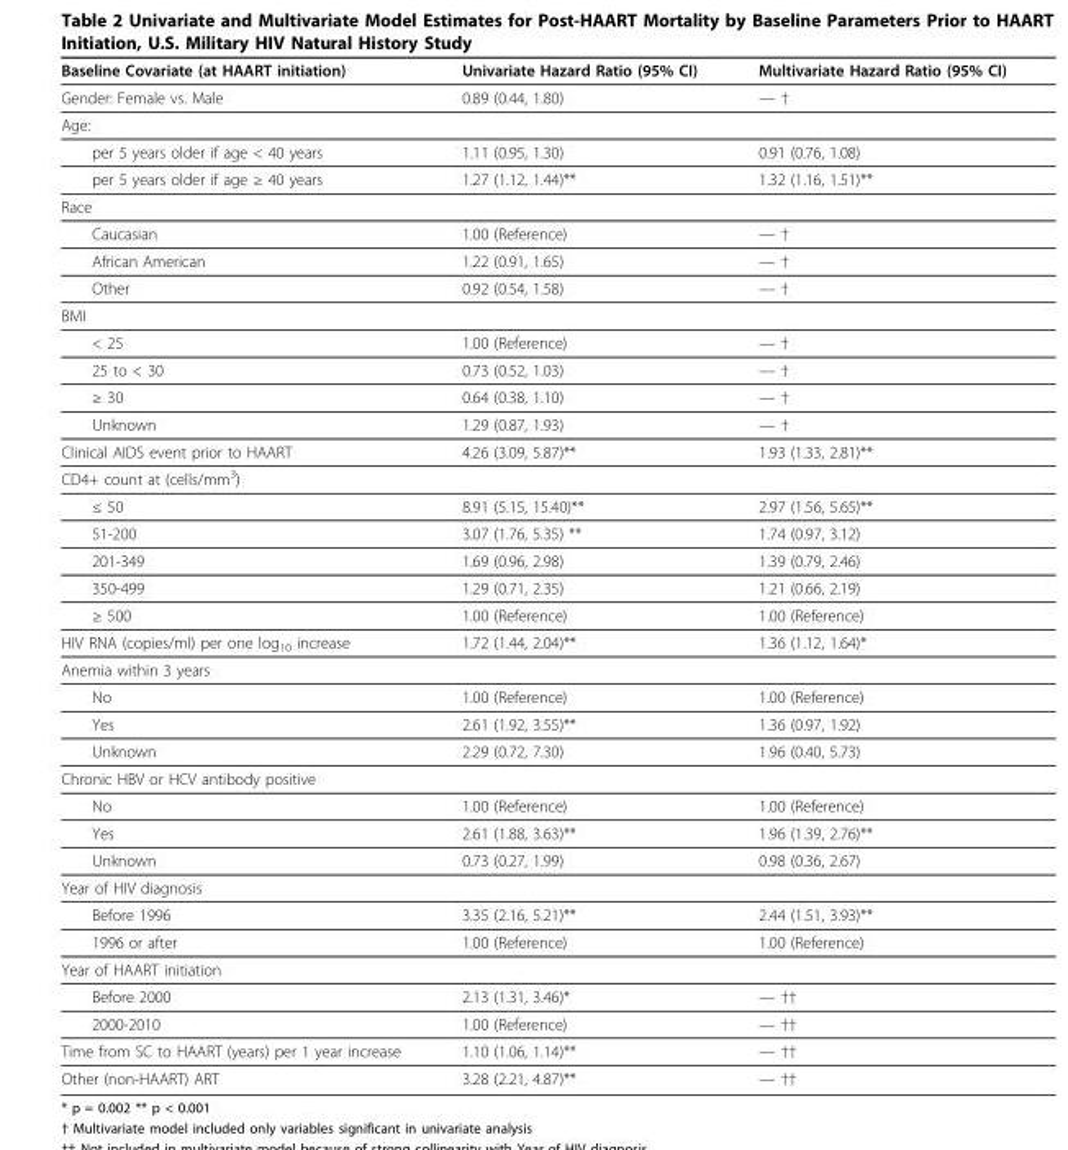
<table><thead><tr><td>Baseline Covariate (at HAART initiation)</td><td>Univariate Hazard Ratio (95% CI)</td><td>Multivariate Hazard Ratio (95% CI)</td></tr></thead><tbody><tr><td>Gender: Female vs. Male</td><td>0.89 (0.44, 1.80)</td><td>— †</td></tr><tr><td colspan="3">Age:</td></tr><tr><td>per 5 years older if age &lt; 40 years</td><td>1.11 (0.95, 1.30)</td><td>0.91 (0.76, 1.08)</td></tr><tr><td>per 5 years older if age ≥ 40 years</td><td>1.27 (1.12, 1.44)**</td><td>1.32 (1.16, 1.51)**</td></tr><tr><td colspan="3">Race</td></tr><tr><td>Caucasian</td><td>1.00 (Reference)</td><td>— †</td></tr><tr><td>African American</td><td>1.22 (0.91, 1.65)</td><td>— †</td></tr><tr><td>Other</td><td>0.92 (0.54, 1.58)</td><td>— †</td></tr><tr><td colspan="3">BMI</td></tr><tr><td>&lt; 25</td><td>1.00 (Reference)</td><td>— †</td></tr><tr><td>25 to &lt; 30</td><td>0.73 (0.52, 1.03)</td><td>— †</td></tr><tr><td>≥ 30</td><td>0.64 (0.38, 1.10)</td><td>— †</td></tr><tr><td>Unknown</td><td>1.29 (0.87, 1.93)</td><td>— †</td></tr><tr><td>Clinical AIDS event prior to HAART</td><td>4.26 (3.09, 5.87)**</td><td>1.93 (1.33, 2.81)**</td></tr><tr><td colspan="3">CD4+ count at (cells/mm3)</td></tr><tr><td>≤ 50</td><td>8.91 (5.15, 15.40)**</td><td>2.97 (1.56, 5.65)**</td></tr><tr><td>51-200</td><td>3.07 (1.76, 5.35) **</td><td>1.74 (0.97, 3.12)</td></tr><tr><td>201-349</td><td>1.69 (0.96, 2.98)</td><td>1.39 (0.79, 2.46)</td></tr><tr><td>350-499</td><td>1.29 (0.71, 2.35)</td><td>1.21 (0.66, 2.19)</td></tr><tr><td>≥ 500</td><td>1.00 (Reference)</td><td>1.00 (Reference)</td></tr><tr><td>HIV RNA (copies/ml) per one log10 increase</td><td>1.72 (1.44, 2.04)**</td><td>1.36 (1.12, 1.64)*</td></tr><tr><td colspan="3">Anemia within 3 years</td></tr><tr><td>No</td><td>1.00 (Reference)</td><td>1.00 (Reference)</td></tr><tr><td>Yes</td><td>2.61 (1.92, 3.55)**</td><td>1.36 (0.97, 1.92)</td></tr><tr><td>Unknown</td><td>2.29 (0.72, 7.30)</td><td>1.96 (0.40, 5.73)</td></tr><tr><td colspan="3">Chronic HBV or HCV antibody positive</td></tr><tr><td>No</td><td>1.00 (Reference)</td><td>1.00 (Reference)</td></tr><tr><td>Yes</td><td>2.61 (1.88, 3.63)**</td><td>1.96 (1.39, 2.76)**</td></tr><tr><td>Unknown</td><td>0.73 (0.27, 1.99)</td><td>0.98 (0.36, 2.67)</td></tr><tr><td colspan="3">Year of HIV diagnosis</td></tr><tr><td>Before 1996</td><td>3.35 (2.16, 5.21)**</td><td>2.44 (1.51, 3.93)**</td></tr><tr><td>1996 or after</td><td>1.00 (Reference)</td><td>1.00 (Reference)</td></tr><tr><td colspan="3">Year of HAART initiation</td></tr><tr><td>Before 2000</td><td>2.13 (1.31, 3.46)*</td><td>— ††</td></tr><tr><td>2000-2010</td><td>1.00 (Reference)</td><td>— ††</td></tr><tr><td>Time from SC to HAART (years) per 1 year increase</td><td>1.10 (1.06, 1.14)**</td><td>— ††</td></tr><tr><td>Other (non-HAART) ART</td><td>3.28 (2.21, 4.87)**</td><td>— ††</td></tr></tbody></table>